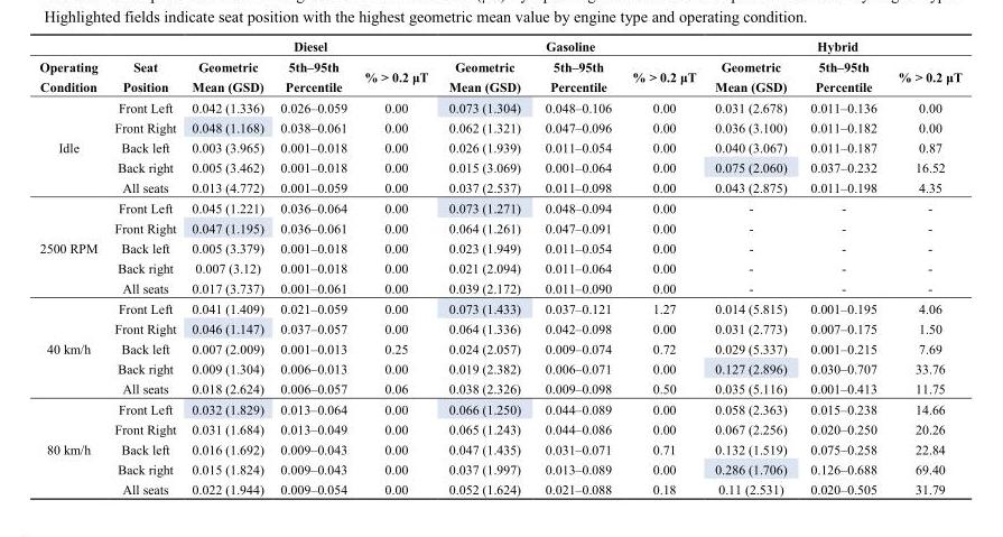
<table><thead><tr><td rowspan="2">Operating Condition</td><td rowspan="2">Seat Position</td><td colspan="3">Diesel</td><td colspan="3">Gasoline</td><td colspan="3">Hybrid</td></tr><tr><td>Geometric Mean (GSD)</td><td>5th–95th Percentile</td><td>% &gt; 0.2 μT</td><td>Geometric Mean (GSD)</td><td>5th–95th Percentile</td><td>% &gt; 0.2 μT</td><td>Geometric Mean (GSD)</td><td>5th–95th Percentile</td><td>% &gt; 0.2 μT</td></tr></thead><tbody><tr><td rowspan="5">Idle</td><td>Front Left</td><td>0.042 (1.336)</td><td>0.026–0.059</td><td>0.00</td><td>0.073 (1.304)</td><td>0.048–0.106</td><td>0.00</td><td>0.031 (2.678)</td><td>0.011–0.136</td><td>0.00</td></tr><tr><td>Front Right</td><td>0.048 (1.168)</td><td>0.038–0.061</td><td>0.00</td><td>0.062 (1.321)</td><td>0.047–0.096</td><td>0.00</td><td>0.036 (3.100)</td><td>0.011–0.182</td><td>0.00</td></tr><tr><td>Back left</td><td>0.003 (3.965)</td><td>0.001–0.018</td><td>0.00</td><td>0.026 (1.939)</td><td>0.011–0.054</td><td>0.00</td><td>0.040 (3.067)</td><td>0.011–0.187</td><td>0.87</td></tr><tr><td>Back right</td><td>0.005 (3.462)</td><td>0.001–0.018</td><td>0.00</td><td>0.015 (3.069)</td><td>0.001–0.064</td><td>0.00</td><td>0.075 (2.060)</td><td>0.037–0.232</td><td>16.52</td></tr><tr><td>All seats</td><td>0.013 (4.772)</td><td>0.001–0.059</td><td>0.00</td><td>0.037 (2.537)</td><td>0.011–0.098</td><td>0.00</td><td>0.043 (2.875)</td><td>0.011–0.198</td><td>4.35</td></tr><tr><td rowspan="5">2500 RPM</td><td>Front Left</td><td>0.045 (1.221)</td><td>0.036–0.064</td><td>0.00</td><td>0.073 (1.271)</td><td>0.048–0.094</td><td>0.00</td><td>-</td><td>-</td><td>-</td></tr><tr><td>Front Right</td><td>0.047 (1.195)</td><td>0.036–0.061</td><td>0.00</td><td>0.064 (1.261)</td><td>0.047–0.091</td><td>0.00</td><td>-</td><td>-</td><td>-</td></tr><tr><td>Back left</td><td>0.005 (3.379)</td><td>0.001–0.018</td><td>0.00</td><td>0.023 (1.949)</td><td>0.011–0.054</td><td>0.00</td><td>-</td><td>-</td><td>-</td></tr><tr><td>Back right</td><td>0.007 (3.12)</td><td>0.001–0.018</td><td>0.00</td><td>0.021 (2.094)</td><td>0.011–0.064</td><td>0.00</td><td>-</td><td>-</td><td>-</td></tr><tr><td>All seats</td><td>0.017 (3.737)</td><td>0.001–0.061</td><td>0.00</td><td>0.039 (2.172)</td><td>0.011–0.090</td><td>0.00</td><td>-</td><td>-</td><td>-</td></tr><tr><td rowspan="5">40 km/h</td><td>Front Left</td><td>0.041 (1.409)</td><td>0.021–0.059</td><td>0.00</td><td>0.073 (1.433)</td><td>0.037–0.121</td><td>1.27</td><td>0.014 (5.815)</td><td>0.001–0.195</td><td>4.06</td></tr><tr><td>Front Right</td><td>0.046 (1.147)</td><td>0.037–0.057</td><td>0.00</td><td>0.064 (1.336)</td><td>0.042–0.098</td><td>0.00</td><td>0.031 (2.773)</td><td>0.007–0.175</td><td>1.50</td></tr><tr><td>Back left</td><td>0.007 (2.009)</td><td>0.001–0.013</td><td>0.25</td><td>0.024 (2.057)</td><td>0.009–0.074</td><td>0.72</td><td>0.029 (5.337)</td><td>0.001–0.215</td><td>7.69</td></tr><tr><td>Back right</td><td>0.009 (1.304)</td><td>0.006–0.013</td><td>0.00</td><td>0.019 (2.382)</td><td>0.006–0.071</td><td>0.00</td><td>0.127 (2.896)</td><td>0.030–0.707</td><td>33.76</td></tr><tr><td>All seats</td><td>0.018 (2.624)</td><td>0.006–0.057</td><td>0.06</td><td>0.038 (2.326)</td><td>0.009–0.098</td><td>0.50</td><td>0.035 (5.116)</td><td>0.001–0.413</td><td>11.75</td></tr><tr><td rowspan="5">80 km/h</td><td>Front Left</td><td>0.032 (1.829)</td><td>0.013–0.064</td><td>0.00</td><td>0.066 (1.250)</td><td>0.044–0.089</td><td>0.00</td><td>0.058 (2.363)</td><td>0.015–0.238</td><td>14.66</td></tr><tr><td>Front Right</td><td>0.031 (1.684)</td><td>0.013–0.049</td><td>0.00</td><td>0.065 (1.243)</td><td>0.044–0.086</td><td>0.00</td><td>0.067 (2.256)</td><td>0.020–0.250</td><td>20.26</td></tr><tr><td>Back left</td><td>0.016 (1.692)</td><td>0.009–0.043</td><td>0.00</td><td>0.047 (1.435)</td><td>0.031–0.071</td><td>0.71</td><td>0.132 (1.519)</td><td>0.075–0.258</td><td>22.84</td></tr><tr><td>Back right</td><td>0.015 (1.824)</td><td>0.009–0.043</td><td>0.00</td><td>0.037 (1.997)</td><td>0.013–0.089</td><td>0.00</td><td>0.286 (1.706)</td><td>0.126–0.688</td><td>69.40</td></tr><tr><td>All seats</td><td>0.022 (1.944)</td><td>0.009–0.054</td><td>0.00</td><td>0.052 (1.624)</td><td>0.021–0.088</td><td>0.18</td><td>0.11 (2.531)</td><td>0.020–0.505</td><td>31.79</td></tr></tbody></table>